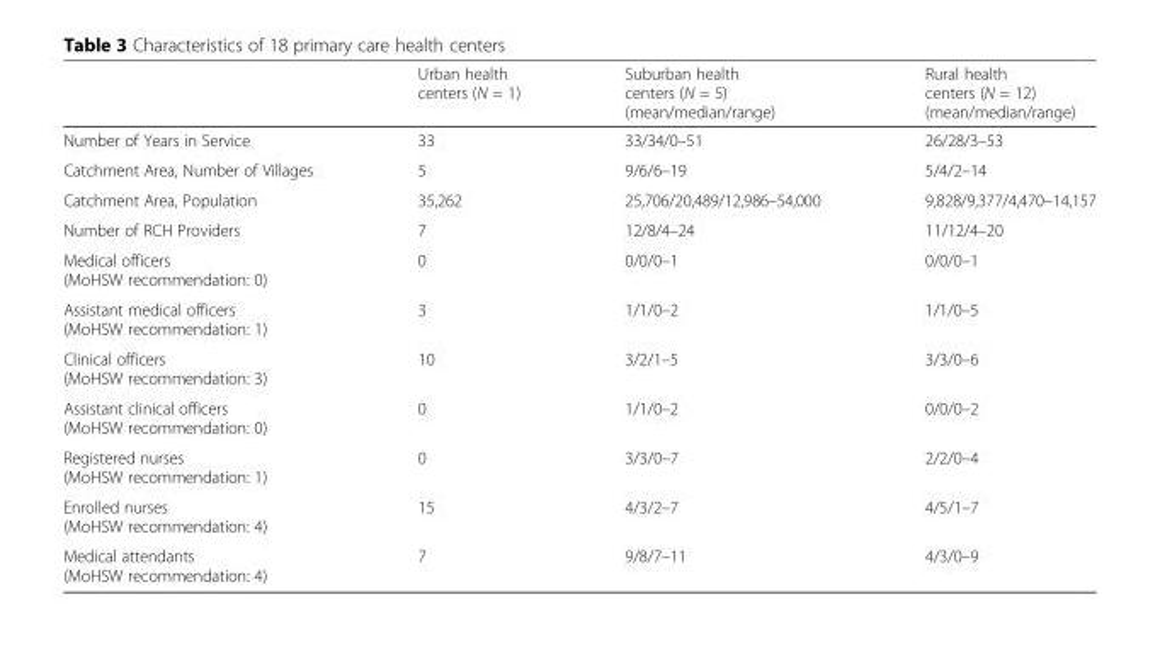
<table><thead><tr><td></td><td>Urban health centers (N = 1)</td><td>Suburban health centers (N = 5) (mean/median/range)</td><td>Rural health centers (N = 12) (mean/median/range)</td></tr></thead><tbody><tr><td>Number of Years in Service</td><td>33</td><td>33/34/0–51</td><td>26/28/3–53</td></tr><tr><td>Catchment Area, Number of Villages</td><td>5</td><td>9/6/6–19</td><td>5/4/2–14</td></tr><tr><td>Catchment Area, Population</td><td>35,262</td><td>25,706/20,489/12,986–54,000</td><td>9,828/9,377/4,470–14,157</td></tr><tr><td>Number of RCH Providers</td><td>7</td><td>12/8/4–24</td><td>11/12/4–20</td></tr><tr><td>Medical officers (MoHSW recommendation: 0)</td><td>0</td><td>0/0/0–1</td><td>0/0/0–1</td></tr><tr><td>Assistant medical officers (MoHSW recommendation: 1)</td><td>3</td><td>1/1/0–2</td><td>1/1/0–5</td></tr><tr><td>Clinical officers (MoHSW recommendation: 3)</td><td>10</td><td>3/2/1–5</td><td>3/3/0–6</td></tr><tr><td>Assistant clinical officers (MoHSW recommendation: 0)</td><td>0</td><td>1/1/0–2</td><td>0/0/0–2</td></tr><tr><td>Registered nurses (MoHSW recommendation: 1)</td><td>0</td><td>3/3/0–7</td><td>2/2/0–4</td></tr><tr><td>Enrolled nurses (MoHSW recommendation: 4)</td><td>15</td><td>4/3/2–7</td><td>4/5/1–7</td></tr><tr><td>Medical attendants (MoHSW recommendation: 4)</td><td>7</td><td>9/8/7–11</td><td>4/3/0–9</td></tr></tbody></table>